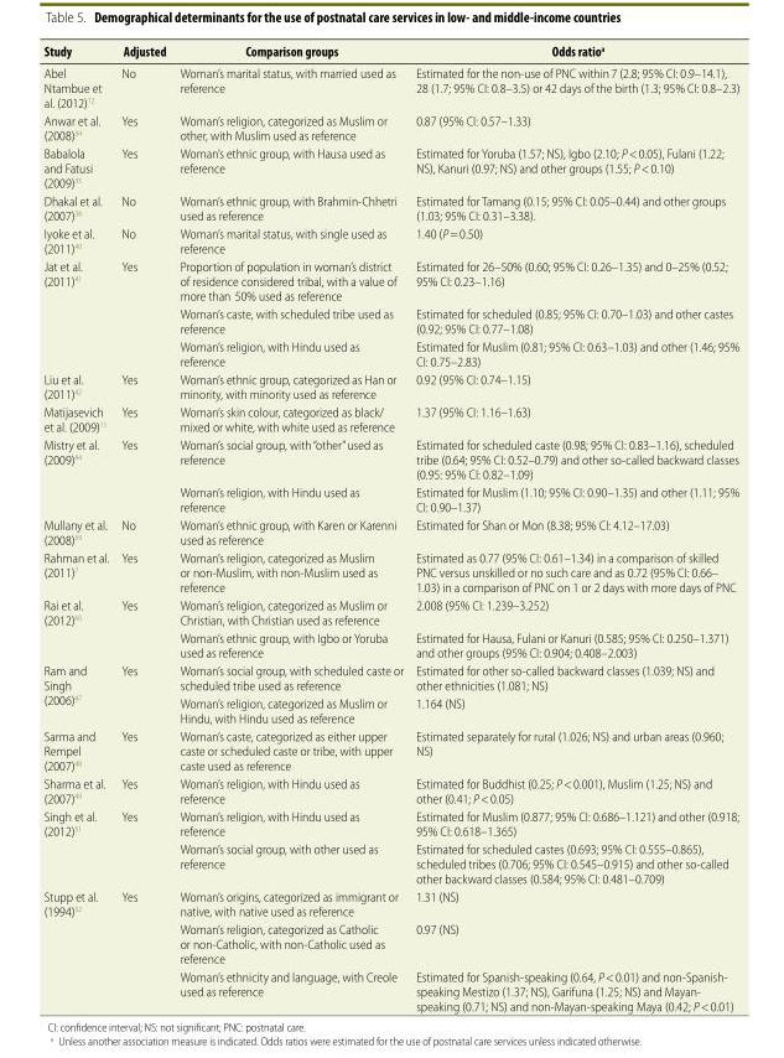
<table><thead><tr><td>Study</td><td>Adjusted</td><td>Comparison groups</td><td>Odds ratio<sup>a</sup></td></tr></thead><tbody><tr><td>Abel Ntambue et al. (2012)<sup>12</sup></td><td>No</td><td>Woman’s marital status, with married used as reference</td><td>Estimated for the non-use of PNC within 7 (2.8; 95% CI: 0.9–14.1), 28 (1.7; 95% CI: 0.8–3.5) or 42 days of the birth (1.3; 95% CI: 0.8–2.3)</td></tr><tr><td>Anwar et al. (2008)<sup>34</sup></td><td>Yes</td><td>Woman’s religion, categorized as Muslim or other, with Muslim used as reference</td><td>0.87 (95% CI: 0.57–1.33)</td></tr><tr><td>Babalola and Fatusi (2009)<sup>35</sup></td><td>Yes</td><td>Woman’s ethnic group, with Hausa used as reference</td><td>Estimated for Yoruba (1.57; NS), Igbo (2.10; P &lt; 0.05), Fulani (1.22; NS), Kanuri (0.97; NS) and other groups (1.55; P &lt; 0.10)</td></tr><tr><td>Dhakal et al. (2007)<sup>38</sup></td><td>No</td><td>Woman’s ethnic group, with Brahmin-Chhetri used as reference</td><td>Estimated for Tamang (0.15; 95% CI: 0.05–0.44) and other groups (1.03; 95% CI: 0.31–3.38).</td></tr><tr><td>Iyoke et al. (2011)<sup>40</sup></td><td>No</td><td>Woman’s marital status, with single used as reference</td><td>1.40 (P = 0.50)</td></tr><tr><td rowspan="3">Jat et al. (2011)<sup>41</sup></td><td rowspan="3">Yes</td><td>Proportion of population in woman’s district of residence considered tribal, with a value of more than 50% used as reference</td><td>Estimated for 26–50% (0.60; 95% CI: 0.26–1.35) and 0–25% (0.52; 95% CI: 0.23–1.16)</td></tr><tr><td>Woman’s caste, with scheduled tribe used as reference</td><td>Estimated for scheduled (0.85; 95% CI: 0.70–1.03) and other castes (0.92; 95% CI: 0.77–1.08)</td></tr><tr><td>Woman’s religion, with Hindu used as reference</td><td>Estimated for Muslim (0.81; 95% CI: 0.63–1.03) and other (1.46; 95% CI: 0.75–2.83)</td></tr><tr><td>Liu et al. (2011)<sup>42</sup></td><td>Yes</td><td>Woman’s ethnic group, categorized as Han or minority, with minority used as reference</td><td>0.92 (95% CI: 0.74–1.15)</td></tr><tr><td>Matijasevich et al. (2009)<sup>11</sup></td><td>Yes</td><td>Woman’s skin colour, categorized as black/ mixed or white, with white used as reference</td><td>1.37 (95% CI: 1.16–1.63)</td></tr><tr><td rowspan="2">Mistry et al. (2009)<sup>44</sup></td><td rowspan="2">Yes</td><td>Woman’s social group, with “other” used as reference</td><td>Estimated for scheduled caste (0.98; 95% CI: 0.83–1.16), scheduled tribe (0.64; 95% CI: 0.52–0.79) and other so-called backward classes (0.95: 95% CI: 0.82–1.09)</td></tr><tr><td>Woman’s religion, with Hindu used as reference</td><td>Estimated for Muslim (1.10; 95% CI: 0.90–1.35) and other (1.11; 95% CI: 0.90–1.37)</td></tr><tr><td>Mullany et al. (2008)<sup>59</sup></td><td>No</td><td>Woman’s ethnic group, with Karen or Karenni used as reference</td><td>Estimated for Shan or Mon (8.38; 95% CI: 4.12–17.03)</td></tr><tr><td>Rahman et al. (2011)<sup>7</sup></td><td>Yes</td><td>Woman’s religion, categorized as Muslim or non-Muslim, with non-Muslim used as reference</td><td>Estimated as 0.77 (95% CI: 0.61–1.34) in a comparison of skilled PNC versus unskilled or no such care and as 0.72 (95% CI: 0.66– 1.03) in a comparison of PNC on 1 or 2 days with more days of PNC</td></tr><tr><td rowspan="2">Rai et al. (2012)<sup>60</sup></td><td rowspan="2">Yes</td><td>Woman’s religion, categorized as Muslim or Christian, with Christian used as reference</td><td>2.008 (95% CI: 1.239–3.252)</td></tr><tr><td>Woman’s ethnic group, with Igbo or Yoruba used as reference</td><td>Estimated for Hausa, Fulani or Kanuri (0.585; 95% CI: 0.250–1.371) and other groups (95% CI: 0.904; 0.408–2.003)</td></tr><tr><td rowspan="2">Ram and Singh (2006)<sup>47</sup></td><td rowspan="2">Yes</td><td>Woman’s social group, with scheduled caste or scheduled tribe used as reference</td><td>Estimated for other so-called backward classes (1.039; NS) and other ethnicities (1.081; NS)</td></tr><tr><td>Woman’s religion, categorized as Muslim or Hindu, with Hindu used as reference</td><td>1.164 (NS)</td></tr><tr><td>Sarma and Rempel (2007)<sup>48</sup></td><td>Yes</td><td>Woman’s caste, categorized as either upper caste or scheduled caste or tribe, with upper caste used as reference</td><td>Estimated separately for rural (1.026; NS) and urban areas (0.960; NS)</td></tr><tr><td>Sharma et al. (2007)<sup>49</sup></td><td>Yes</td><td>Woman’s religion, with Hindu used as reference</td><td>Estimated for Buddhist (0.25; P &lt; 0.001), Muslim (1.25; NS) and other (0.41; P &lt; 0.05)</td></tr><tr><td rowspan="2">Singh et al. (2012)<sup>51</sup></td><td rowspan="2">Yes</td><td>Woman’s religion, with Hindu used as reference</td><td>Estimated for Muslim (0.877; 95% CI: 0.686–1.121) and other (0.918; 95% CI: 0.618–1.365)</td></tr><tr><td>Woman’s social group, with other used as reference</td><td>Estimated for scheduled castes (0.693; 95% CI: 0.555–0.865), scheduled tribes (0.706; 95% CI: 0.545–0.915) and other so-called other backward classes (0.584; 95% CI: 0.481–0.709)</td></tr><tr><td rowspan="3">Stupp et al. (1994)<sup>52</sup></td><td rowspan="3">Yes</td><td>Woman’s origins, categorized as immigrant or native, with native used as reference</td><td>1.31 (NS)</td></tr><tr><td>Woman’s religion, categorized as Catholic or non-Catholic, with non-Catholic used as reference</td><td>0.97 (NS)</td></tr><tr><td>Woman’s ethnicity and language, with Creole used as reference</td><td>Estimated for Spanish-speaking (0.64, P &lt; 0.01) and non-Spanish- speaking Mestizo (1.37; NS), Garifuna (1.25; NS) and Mayan- speaking (0.71; NS) and non-Mayan-speaking Maya (0.42; P &lt; 0.01)</td></tr></tbody></table>